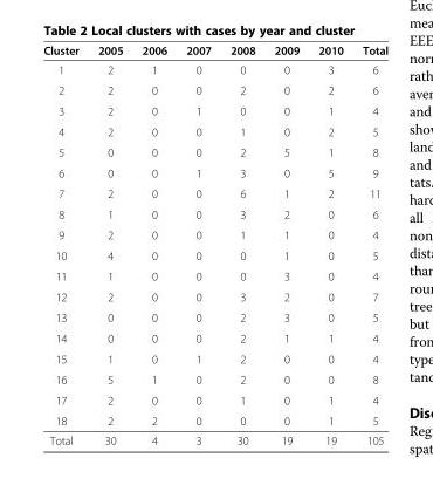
<table><thead><tr><td>Cluster</td><td>2005</td><td>2006</td><td>2007</td><td>2008</td><td>2009</td><td>2010</td><td>Total</td></tr></thead><tbody><tr><td>1</td><td>2</td><td>1</td><td>0</td><td>0</td><td>0</td><td>3</td><td>6</td></tr><tr><td>2</td><td>2</td><td>0</td><td>0</td><td>2</td><td>0</td><td>2</td><td>6</td></tr><tr><td>3</td><td>2</td><td>0</td><td>1</td><td>0</td><td>0</td><td>1</td><td>4</td></tr><tr><td>4</td><td>2</td><td>0</td><td>0</td><td>1</td><td>0</td><td>2</td><td>5</td></tr><tr><td>5</td><td>0</td><td>0</td><td>0</td><td>2</td><td>5</td><td>1</td><td>8</td></tr><tr><td>6</td><td>0</td><td>0</td><td>1</td><td>3</td><td>0</td><td>5</td><td>9</td></tr><tr><td>7</td><td>2</td><td>0</td><td>0</td><td>6</td><td>1</td><td>2</td><td>11</td></tr><tr><td>8</td><td>1</td><td>0</td><td>0</td><td>3</td><td>2</td><td>0</td><td>6</td></tr><tr><td>9</td><td>2</td><td>0</td><td>0</td><td>1</td><td>1</td><td>0</td><td>4</td></tr><tr><td>10</td><td>4</td><td>0</td><td>0</td><td>0</td><td>1</td><td>0</td><td>5</td></tr><tr><td>11</td><td>1</td><td>0</td><td>0</td><td>0</td><td>3</td><td>0</td><td>4</td></tr><tr><td>12</td><td>2</td><td>0</td><td>0</td><td>3</td><td>2</td><td>0</td><td>7</td></tr><tr><td>13</td><td>0</td><td>0</td><td>0</td><td>2</td><td>3</td><td>0</td><td>5</td></tr><tr><td>14</td><td>0</td><td>0</td><td>0</td><td>2</td><td>1</td><td>1</td><td>4</td></tr><tr><td>15</td><td>1</td><td>0</td><td>1</td><td>2</td><td>0</td><td>0</td><td>4</td></tr><tr><td>16</td><td>5</td><td>1</td><td>0</td><td>2</td><td>0</td><td>0</td><td>8</td></tr><tr><td>17</td><td>2</td><td>0</td><td>0</td><td>1</td><td>0</td><td>1</td><td>4</td></tr><tr><td>18</td><td>2</td><td>2</td><td>0</td><td>0</td><td>0</td><td>1</td><td>5</td></tr><tr><td>Total</td><td>30</td><td>4</td><td>3</td><td>30</td><td>19</td><td>19</td><td>105</td></tr></tbody></table>